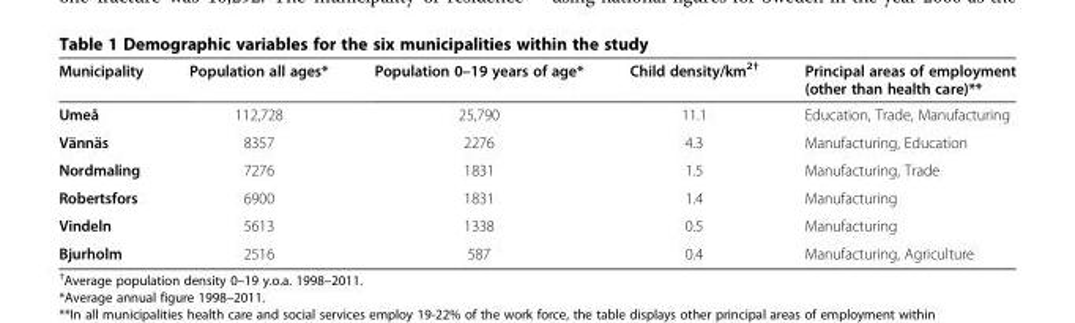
<table><thead><tr><td>Municipality</td><td>Population all ages*</td><td>Population 0–19 years of age*</td><td>Child density/km<sup>2†</sup></td><td>Principal areas of employment (other than health care)**</td></tr></thead><tbody><tr><td>Umeå</td><td>112,728</td><td>25,790</td><td>11.1</td><td>Education, Trade, Manufacturing</td></tr><tr><td>Vännäs</td><td>8357</td><td>2276</td><td>4.3</td><td>Manufacturing, Education</td></tr><tr><td>Nordmaling</td><td>7276</td><td>1831</td><td>1.5</td><td>Manufacturing, Trade</td></tr><tr><td>Robertsfors</td><td>6900</td><td>1831</td><td>1.4</td><td>Manufacturing</td></tr><tr><td>Vindeln</td><td>5613</td><td>1338</td><td>0.5</td><td>Manufacturing</td></tr><tr><td>Bjurholm</td><td>2516</td><td>587</td><td>0.4</td><td>Manufacturing, Agriculture</td></tr></tbody></table>